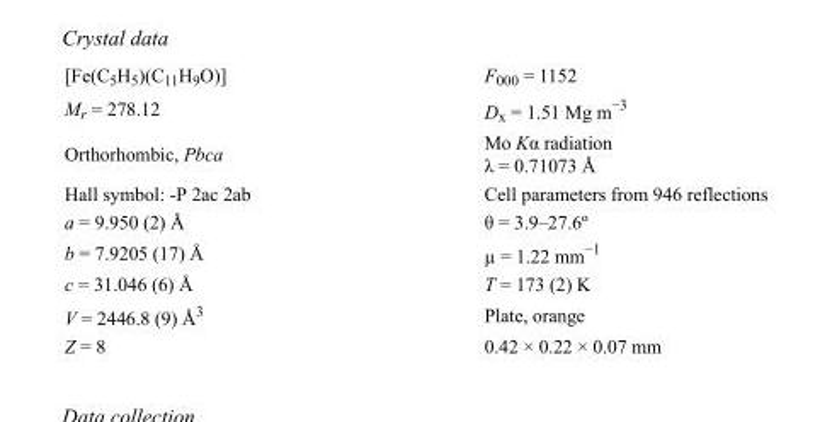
<table><tbody><tr><td>[Fe(C<sub>5</sub>H<sub>5</sub>)(C<sub>11</sub>H<sub>9</sub>O)]</td><td>F<sub>000</sub> = 1152</td></tr><tr><td>M<sub>r</sub> = 278.12</td><td>D<sub>x</sub> = 1.51 Mg m<sup>−3</sup></td></tr><tr><td>Orthorhombic, Pbca</td><td>Mo Kα radiation λ = 0.71073 Å</td></tr><tr><td>Hall symbol: -P 2ac 2ab</td><td>Cell parameters from 946 reflections</td></tr><tr><td>a = 9.950 (2) Å</td><td>θ = 3.9–27.6º</td></tr><tr><td>b = 7.9205 (17) Å</td><td>µ = 1.22 mm<sup>−1</sup></td></tr><tr><td>c = 31.046 (6) Å</td><td>T = 173 (2) K</td></tr><tr><td>V = 2446.8 (9) Å<sup>3</sup></td><td>Plate, orange</td></tr><tr><td>Z = 8</td><td>0.42 × 0.22 × 0.07 mm</td></tr></tbody></table>